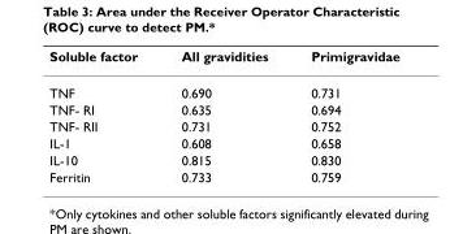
<table><thead><tr><td>Soluble factor</td><td>All gravidities</td><td>Primigravidae</td></tr></thead><tbody><tr><td>TNF</td><td>0.690</td><td>0.731</td></tr><tr><td>TNF- RI</td><td>0.635</td><td>0.694</td></tr><tr><td>TNF- RII</td><td>0.731</td><td>0.752</td></tr><tr><td>IL-1</td><td>0.608</td><td>0.658</td></tr><tr><td>IL-10</td><td>0.815</td><td>0.830</td></tr><tr><td>Ferritin</td><td>0.733</td><td>0.759</td></tr></tbody></table>